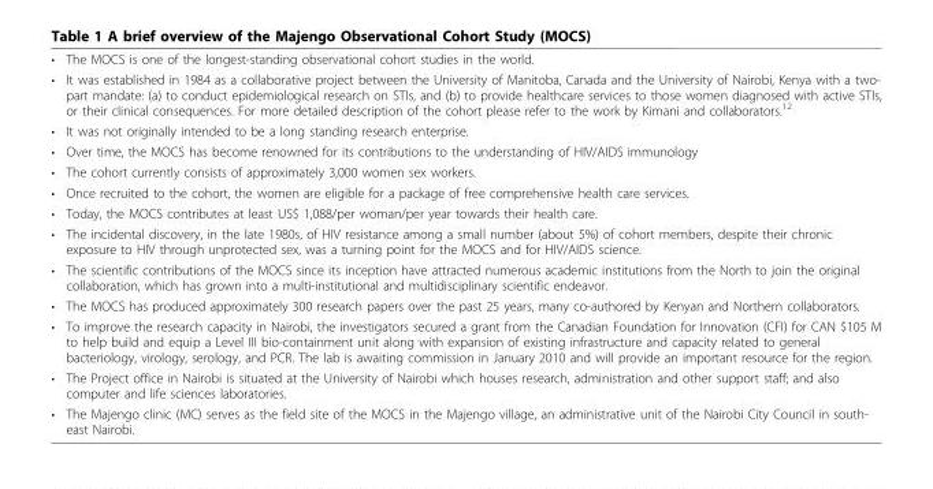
<table><tbody><tr><td>•</td><td>The MOCS is one of the longest-standing observational cohort studies in the world.</td></tr><tr><td>•</td><td>It was established in 1984 as a collaborative project between the University of Manitoba, Canada and the University of Nairobi, Kenya with a two- part mandate: (a) to conduct epidemiological research on STIs, and (b) to provide healthcare services to those women diagnosed with active STIs, or their clinical consequences. For more detailed description of the cohort please refer to the work by Kimani and collaborators.<sup>12</sup></td></tr><tr><td>•</td><td>It was not originally intended to be a long standing research enterprise.</td></tr><tr><td>•</td><td>Over time, the MOCS has become renowned for its contributions to the understanding of HIV/AIDS immunology</td></tr><tr><td>•</td><td>The cohort currently consists of approximately 3,000 women sex workers.</td></tr><tr><td>•</td><td>Once recruited to the cohort, the women are eligible for a package of free comprehensive health care services.</td></tr><tr><td>•</td><td>Today, the MOCS contributes at least US$ 1,088/per woman/per year towards their health care.</td></tr><tr><td>•</td><td>The incidental discovery, in the late 1980s, of HIV resistance among a small number (about 5%) of cohort members, despite their chronic exposure to HIV through unprotected sex, was a turning point for the MOCS and for HIV/AIDS science.</td></tr><tr><td>•</td><td>The scientific contributions of the MOCS since its inception have attracted numerous academic institutions from the North to join the original collaboration, which has grown into a multi-institutional and multidisciplinary scientific endeavor.</td></tr><tr><td>•</td><td>The MOCS has produced approximately 300 research papers over the past 25 years, many co-authored by Kenyan and Northern collaborators.</td></tr><tr><td>•</td><td>To improve the research capacity in Nairobi, the investigators secured a grant from the Canadian Foundation for Innovation (CFI) for CAN $105 M to help build and equip a Level III bio-containment unit along with expansion of existing infrastructure and capacity related to general bacteriology, virology, serology, and PCR. The lab is awaiting commission in January 2010 and will provide an important resource for the region.</td></tr><tr><td>•</td><td>The Project office in Nairobi is situated at the University of Nairobi which houses research, administration and other support staff; and also computer and life sciences laboratories.</td></tr><tr><td>•</td><td>The Majengo clinic (MC) serves as the field site of the MOCS in the Majengo village, an administrative unit of the Nairobi City Council in south- east Nairobi.</td></tr></tbody></table>